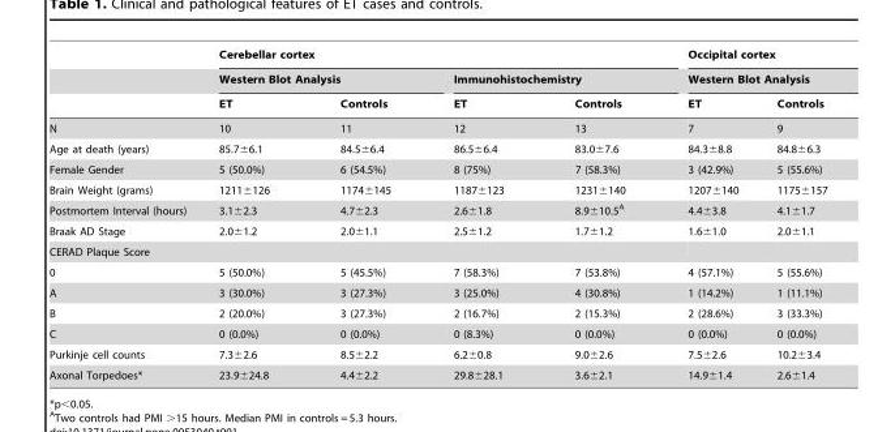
<table><thead><tr><td rowspan="3"></td><td colspan="4">Cerebellar cortex</td><td rowspan="2" colspan="2">Occipital cortex Western Blot Analysis</td></tr><tr><td colspan="2">Western Blot Analysis</td><td colspan="2">Immunohistochemistry</td></tr><tr><td>ET</td><td>Controls</td><td>ET</td><td>Controls</td><td>ET</td><td>Controls</td></tr></thead><tbody><tr><td>N</td><td>10</td><td>11</td><td>12</td><td>13</td><td>7</td><td>9</td></tr><tr><td>Age at death (years)</td><td>85.7±6.1</td><td>84.5±6.4</td><td>86.5±6.4</td><td>83.0±7.6</td><td>84.3±8.8</td><td>84.8±6.3</td></tr><tr><td>Female Gender</td><td>5 (50.0%)</td><td>6 (54.5%)</td><td>8 (75%)</td><td>7 (58.3%)</td><td>3 (42.9%)</td><td>5 (55.6%)</td></tr><tr><td>Brain Weight (grams)</td><td>1211±126</td><td>1174±145</td><td>1187±123</td><td>1231±140</td><td>1207±140</td><td>1175±157</td></tr><tr><td>Postmortem Interval (hours)</td><td>3.1±2.3</td><td>4.7±2.3</td><td>2.6±1.8</td><td>8.9±10.5<sup>A</sup></td><td>4.4±3.8</td><td>4.1±1.7</td></tr><tr><td>Braak AD Stage</td><td>2.0±1.2</td><td>2.0±1.1</td><td>2.5±1.2</td><td>1.7±1.2</td><td>1.6±1.0</td><td>2.0±1.1</td></tr><tr><td colspan="7">CERAD Plaque Score</td></tr><tr><td>0</td><td>5 (50.0%)</td><td>5 (45.5%)</td><td>7 (58.3%)</td><td>7 (53.8%)</td><td>4 (57.1%)</td><td>5 (55.6%)</td></tr><tr><td>A</td><td>3 (30.0%)</td><td>3 (27.3%)</td><td>3 (25.0%)</td><td>4 (30.8%)</td><td>1 (14.2%)</td><td>1 (11.1%)</td></tr><tr><td>B</td><td>2 (20.0%)</td><td>3 (27.3%)</td><td>2 (16.7%)</td><td>2 (15.3%)</td><td>2 (28.6%)</td><td>3 (33.3%)</td></tr><tr><td>C</td><td>0 (0.0%)</td><td>0 (0.0%)</td><td>0 (8.3%)</td><td>0 (0.0%)</td><td>0 (0.0%)</td><td>0 (0.0%)</td></tr><tr><td>Purkinje cell counts</td><td>7.3±2.6</td><td>8.5±2.2</td><td>6.2±0.8</td><td>9.0±2.6</td><td>7.5±2.6</td><td>10.2±3.4</td></tr><tr><td>Axonal Torpedoes*</td><td>23.9±24.8</td><td>4.4±2.2</td><td>29.8±28.1</td><td>3.6±2.1</td><td>14.9±1.4</td><td>2.6±1.4</td></tr></tbody></table>